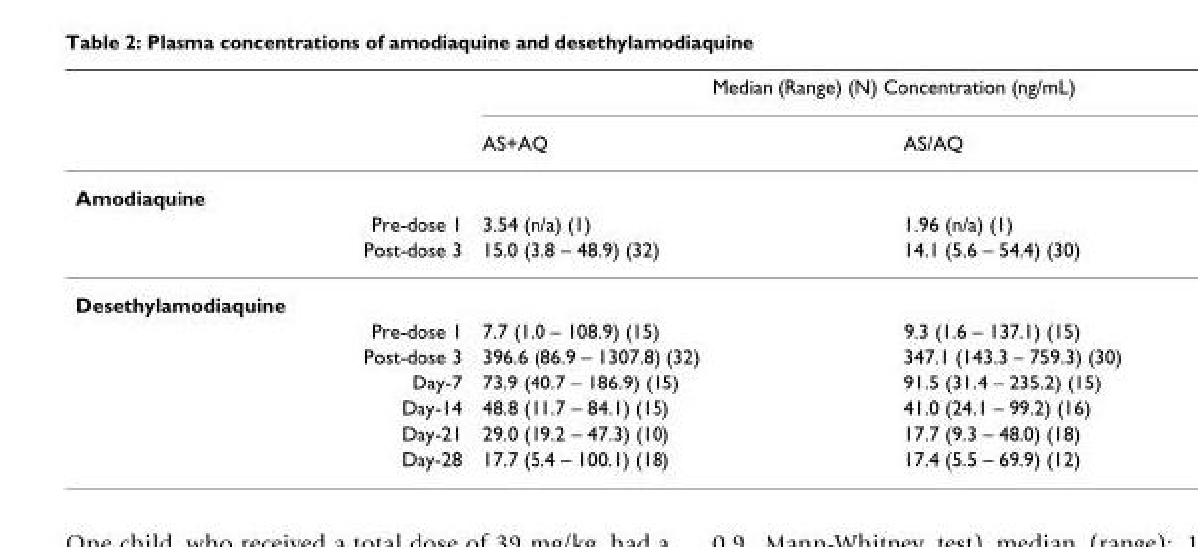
<table><thead><tr><td rowspan="2"></td><td colspan="2">Median (Range) (N) Concentration (ng/mL)</td></tr><tr><td>AS+AQ</td><td>AS/AQ</td></tr></thead><tbody><tr><td colspan="3">Amodiaquine</td></tr><tr><td>Pre-dose 1</td><td>3.54 (n/a) (1)</td><td>1.96 (n/a) (1)</td></tr><tr><td>Post-dose 3</td><td>15.0 (3.8 – 48.9) (32)</td><td>14.1 (5.6 – 54.4) (30)</td></tr><tr><td colspan="3">Desethylamodiaquine</td></tr><tr><td>Pre-dose 1</td><td>7.7 (1.0 – 108.9) (15)</td><td>9.3 (1.6 – 137.1) (15)</td></tr><tr><td>Post-dose 3</td><td>396.6 (86.9 – 1307.8) (32)</td><td>347.1 (143.3 – 759.3) (30)</td></tr><tr><td>Day-7</td><td>73.9 (40.7 – 186.9) (15)</td><td>91.5 (31.4 – 235.2) (15)</td></tr><tr><td>Day-14</td><td>48.8 (11.7 – 84.1) (15)</td><td>41.0 (24.1 – 99.2) (16)</td></tr><tr><td>Day-21</td><td>29.0 (19.2 – 47.3) (10)</td><td>17.7 (9.3 – 48.0) (18)</td></tr><tr><td>Day-28</td><td>17.7 (5.4 – 100.1) (18)</td><td>17.4 (5.5 – 69.9) (12)</td></tr></tbody></table>